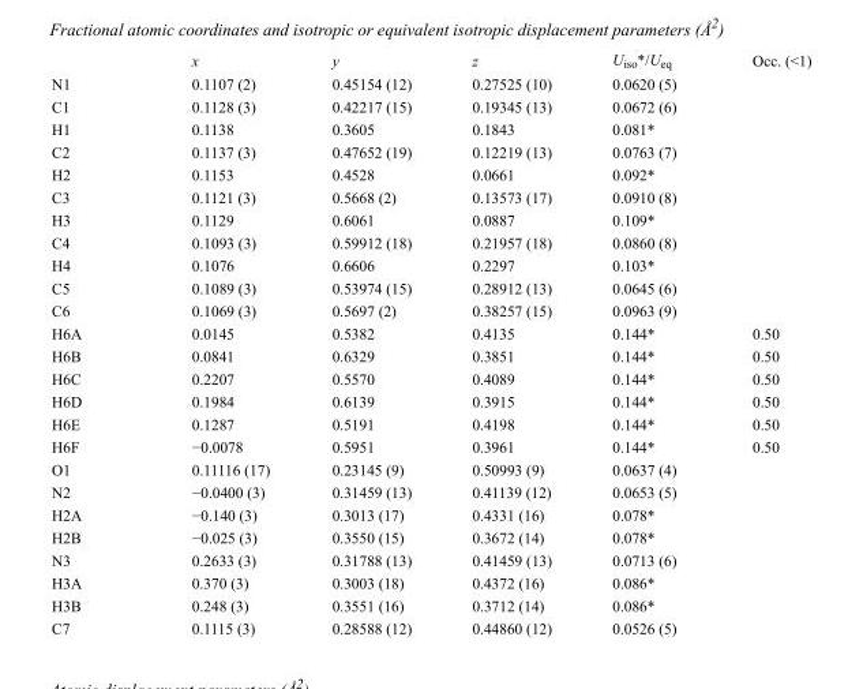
<table><thead><tr><td></td><td>x</td><td>y</td><td>z</td><td>U<sub>iso</sub>*/U<sub>eq</sub></td><td>Occ. (&lt;1)</td></tr></thead><tbody><tr><td>N1</td><td>0.1107 (2)</td><td>0.45154 (12)</td><td>0.27525 (10)</td><td>0.0620 (5)</td><td></td></tr><tr><td>C1</td><td>0.1128 (3)</td><td>0.42217 (15)</td><td>0.19345 (13)</td><td>0.0672 (6)</td><td></td></tr><tr><td>H1</td><td>0.1138</td><td>0.3605</td><td>0.1843</td><td>0.081*</td><td></td></tr><tr><td>C2</td><td>0.1137 (3)</td><td>0.47652 (19)</td><td>0.12219 (13)</td><td>0.0763 (7)</td><td></td></tr><tr><td>H2</td><td>0.1153</td><td>0.4528</td><td>0.0661</td><td>0.092*</td><td></td></tr><tr><td>C3</td><td>0.1121 (3)</td><td>0.5668 (2)</td><td>0.13573 (17)</td><td>0.0910 (8)</td><td></td></tr><tr><td>H3</td><td>0.1129</td><td>0.6061</td><td>0.0887</td><td>0.109*</td><td></td></tr><tr><td>C4</td><td>0.1093 (3)</td><td>0.59912 (18)</td><td>0.21957 (18)</td><td>0.0860 (8)</td><td></td></tr><tr><td>H4</td><td>0.1076</td><td>0.6606</td><td>0.2297</td><td>0.103*</td><td></td></tr><tr><td>C5</td><td>0.1089 (3)</td><td>0.53974 (15)</td><td>0.28912 (13)</td><td>0.0645 (6)</td><td></td></tr><tr><td>C6</td><td>0.1069 (3)</td><td>0.5697 (2)</td><td>0.38257 (15)</td><td>0.0963 (9)</td><td></td></tr><tr><td>H6A</td><td>0.0145</td><td>0.5382</td><td>0.4135</td><td>0.144*</td><td>0.50</td></tr><tr><td>H6B</td><td>0.0841</td><td>0.6329</td><td>0.3851</td><td>0.144*</td><td>0.50</td></tr><tr><td>H6C</td><td>0.2207</td><td>0.5570</td><td>0.4089</td><td>0.144*</td><td>0.50</td></tr><tr><td>H6D</td><td>0.1984</td><td>0.6139</td><td>0.3915</td><td>0.144*</td><td>0.50</td></tr><tr><td>H6E</td><td>0.1287</td><td>0.5191</td><td>0.4198</td><td>0.144*</td><td>0.50</td></tr><tr><td>H6F</td><td>−0.0078</td><td>0.5951</td><td>0.3961</td><td>0.144*</td><td>0.50</td></tr><tr><td>O1</td><td>0.11116 (17)</td><td>0.23145 (9)</td><td>0.50993 (9)</td><td>0.0637 (4)</td><td></td></tr><tr><td>N2</td><td>−0.0400 (3)</td><td>0.31459 (13)</td><td>0.41139 (12)</td><td>0.0653 (5)</td><td></td></tr><tr><td>H2A</td><td>−0.140 (3)</td><td>0.3013 (17)</td><td>0.4331 (16)</td><td>0.078*</td><td></td></tr><tr><td>H2B</td><td>−0.025 (3)</td><td>0.3550 (15)</td><td>0.3672 (14)</td><td>0.078*</td><td></td></tr><tr><td>N3</td><td>0.2633 (3)</td><td>0.31788 (13)</td><td>0.41459 (13)</td><td>0.0713 (6)</td><td></td></tr><tr><td>H3A</td><td>0.370 (3)</td><td>0.3003 (18)</td><td>0.4372 (16)</td><td>0.086*</td><td></td></tr><tr><td>H3B</td><td>0.248 (3)</td><td>0.3551 (16)</td><td>0.3712 (14)</td><td>0.086*</td><td></td></tr><tr><td>C7</td><td>0.1115 (3)</td><td>0.28588 (12)</td><td>0.44860 (12)</td><td>0.0526 (5)</td><td></td></tr></tbody></table>